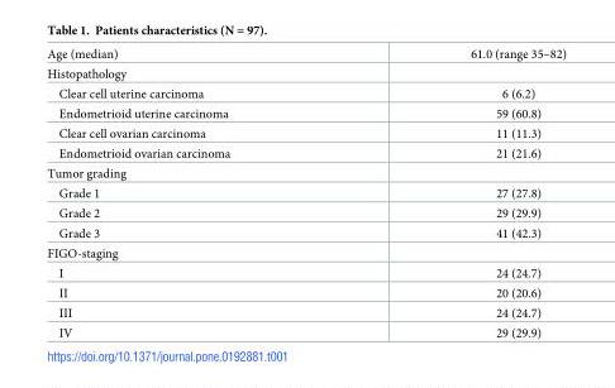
<table><tbody><tr><td>Age (median)</td><td>61.0 (range 35–82)</td></tr><tr><td colspan="2">Histopathology</td></tr><tr><td>Clear cell uterine carcinoma</td><td>6 (6.2)</td></tr><tr><td>Endometrioid uterine carcinoma</td><td>59 (60.8)</td></tr><tr><td>Clear cell ovarian carcinoma</td><td>11 (11.3)</td></tr><tr><td>Endometrioid ovarian carcinoma</td><td>21 (21.6)</td></tr><tr><td colspan="2">Tumor grading</td></tr><tr><td>Grade 1</td><td>27 (27.8)</td></tr><tr><td>Grade 2</td><td>29 (29.9)</td></tr><tr><td>Grade 3</td><td>41 (42.3)</td></tr><tr><td colspan="2">FIGO-staging</td></tr><tr><td>I</td><td>24 (24.7)</td></tr><tr><td>II</td><td>20 (20.6)</td></tr><tr><td>III</td><td>24 (24.7)</td></tr><tr><td>IV</td><td>29 (29.9)</td></tr></tbody></table>